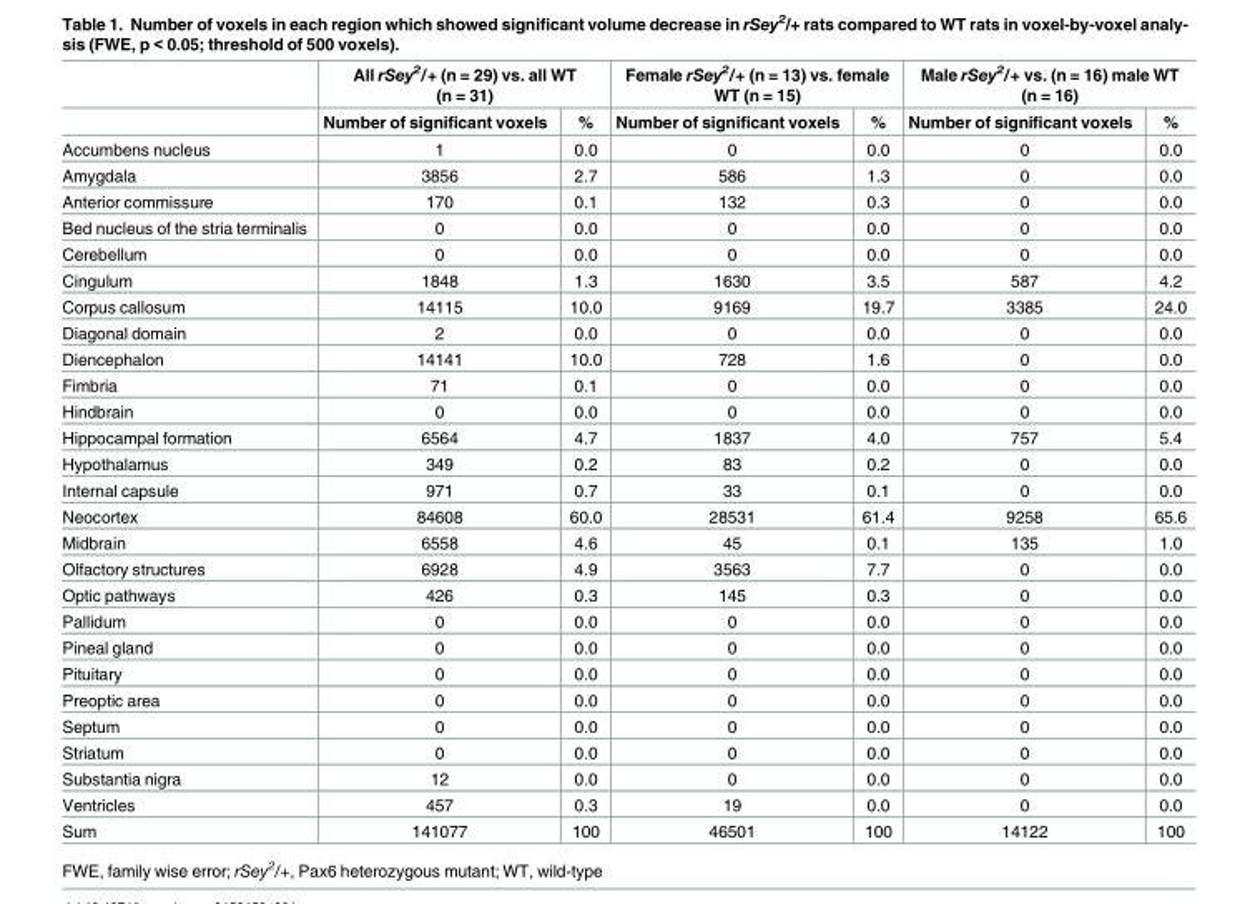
<table><thead><tr><td rowspan="2"></td><td colspan="2">All rSey<sup>2</sup>/+ (n = 29) vs. all WT (n = 31)</td><td colspan="2">Female rSey<sup>2</sup>/+ (n = 13) vs. female WT (n = 15)</td><td colspan="2">Male rSey<sup>2</sup>/+ vs. (n = 16) male WT (n = 16)</td></tr><tr><td>Number of significant voxels</td><td>%</td><td>Number of significant voxels</td><td>%</td><td>Number of significant voxels</td><td>%</td></tr></thead><tbody><tr><td>Accumbens nucleus</td><td>1</td><td>0.0</td><td>0</td><td>0.0</td><td>0</td><td>0.0</td></tr><tr><td>Amygdala</td><td>3856</td><td>2.7</td><td>586</td><td>1.3</td><td>0</td><td>0.0</td></tr><tr><td>Anterior commissure</td><td>170</td><td>0.1</td><td>132</td><td>0.3</td><td>0</td><td>0.0</td></tr><tr><td>Bed nucleus of the stria terminalis</td><td>0</td><td>0.0</td><td>0</td><td>0.0</td><td>0</td><td>0.0</td></tr><tr><td>Cerebellum</td><td>0</td><td>0.0</td><td>0</td><td>0.0</td><td>0</td><td>0.0</td></tr><tr><td>Cingulum</td><td>1848</td><td>1.3</td><td>1630</td><td>3.5</td><td>587</td><td>4.2</td></tr><tr><td>Corpus callosum</td><td>14115</td><td>10.0</td><td>9169</td><td>19.7</td><td>3385</td><td>24.0</td></tr><tr><td>Diagonal domain</td><td>2</td><td>0.0</td><td>0</td><td>0.0</td><td>0</td><td>0.0</td></tr><tr><td>Diencephalon</td><td>14141</td><td>10.0</td><td>728</td><td>1.6</td><td>0</td><td>0.0</td></tr><tr><td>Fimbria</td><td>71</td><td>0.1</td><td>0</td><td>0.0</td><td>0</td><td>0.0</td></tr><tr><td>Hindbrain</td><td>0</td><td>0.0</td><td>0</td><td>0.0</td><td>0</td><td>0.0</td></tr><tr><td>Hippocampal formation</td><td>6564</td><td>4.7</td><td>1837</td><td>4.0</td><td>757</td><td>5.4</td></tr><tr><td>Hypothalamus</td><td>349</td><td>0.2</td><td>83</td><td>0.2</td><td>0</td><td>0.0</td></tr><tr><td>Internal capsule</td><td>971</td><td>0.7</td><td>33</td><td>0.1</td><td>0</td><td>0.0</td></tr><tr><td>Neocortex</td><td>84608</td><td>60.0</td><td>28531</td><td>61.4</td><td>9258</td><td>65.6</td></tr><tr><td>Midbrain</td><td>6558</td><td>4.6</td><td>45</td><td>0.1</td><td>135</td><td>1.0</td></tr><tr><td>Olfactory structures</td><td>6928</td><td>4.9</td><td>3563</td><td>7.7</td><td>0</td><td>0.0</td></tr><tr><td>Optic pathways</td><td>426</td><td>0.3</td><td>145</td><td>0.3</td><td>0</td><td>0.0</td></tr><tr><td>Pallidum</td><td>0</td><td>0.0</td><td>0</td><td>0.0</td><td>0</td><td>0.0</td></tr><tr><td>Pineal gland</td><td>0</td><td>0.0</td><td>0</td><td>0.0</td><td>0</td><td>0.0</td></tr><tr><td>Pituitary</td><td>0</td><td>0.0</td><td>0</td><td>0.0</td><td>0</td><td>0.0</td></tr><tr><td>Preoptic area</td><td>0</td><td>0.0</td><td>0</td><td>0.0</td><td>0</td><td>0.0</td></tr><tr><td>Septum</td><td>0</td><td>0.0</td><td>0</td><td>0.0</td><td>0</td><td>0.0</td></tr><tr><td>Striatum</td><td>0</td><td>0.0</td><td>0</td><td>0.0</td><td>0</td><td>0.0</td></tr><tr><td>Substantia nigra</td><td>12</td><td>0.0</td><td>0</td><td>0.0</td><td>0</td><td>0.0</td></tr><tr><td>Ventricles</td><td>457</td><td>0.3</td><td>19</td><td>0.0</td><td>0</td><td>0.0</td></tr><tr><td>Sum</td><td>141077</td><td>100</td><td>46501</td><td>100</td><td>14122</td><td>100</td></tr></tbody></table>